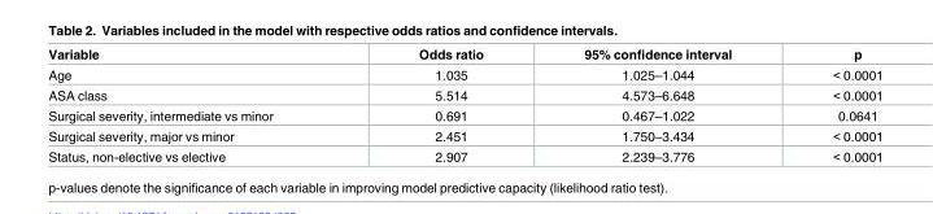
<table><thead><tr><td>Variable</td><td>Odds ratio</td><td>95% confidence interval</td><td>p</td></tr></thead><tbody><tr><td>Age</td><td>1.035</td><td>1.025–1.044</td><td>&lt; 0.0001</td></tr><tr><td>ASA class</td><td>5.514</td><td>4.573–6.648</td><td>&lt; 0.0001</td></tr><tr><td>Surgical severity, intermediate vs minor</td><td>0.691</td><td>0.467–1.022</td><td>0.0641</td></tr><tr><td>Surgical severity, major vs minor</td><td>2.451</td><td>1.750–3.434</td><td>&lt; 0.0001</td></tr><tr><td>Status, non-elective vs elective</td><td>2.907</td><td>2.239–3.776</td><td>&lt; 0.0001</td></tr></tbody></table>